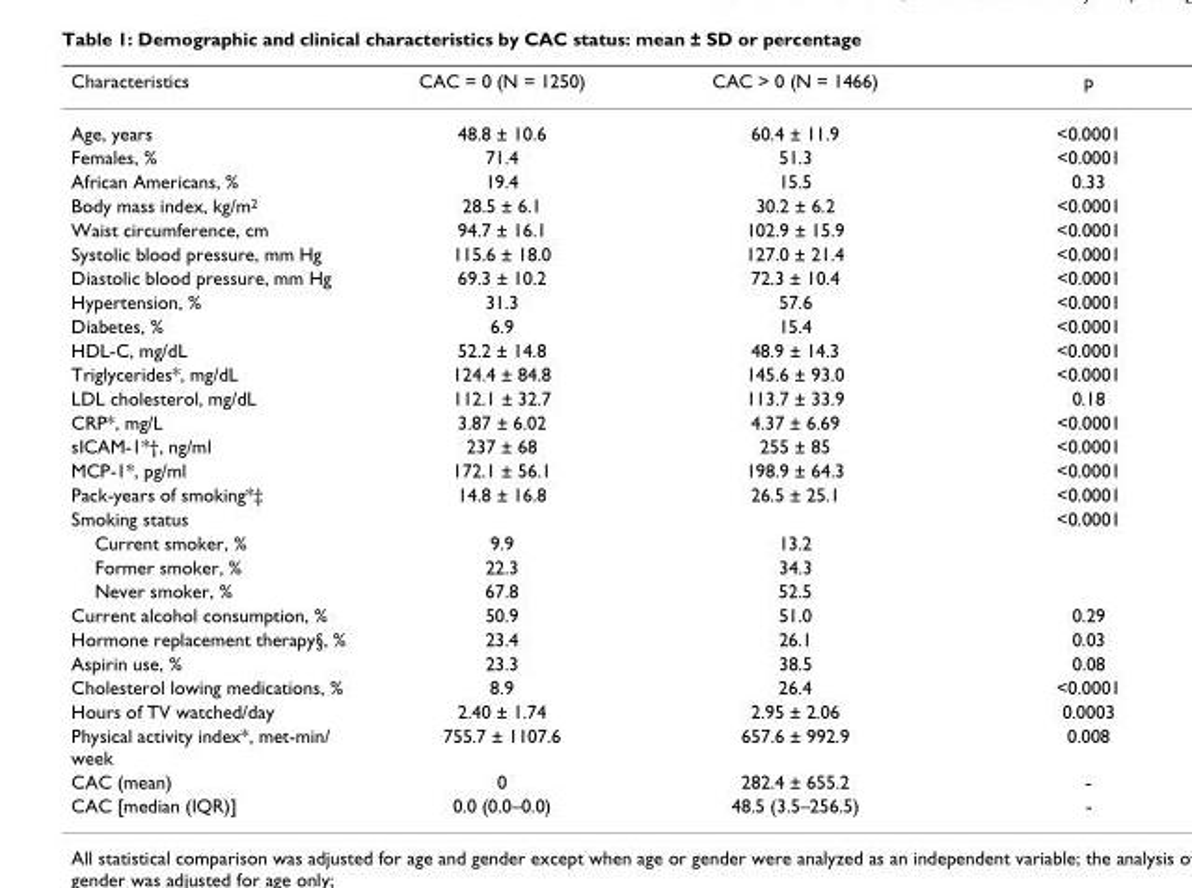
<table><thead><tr><td>Characteristics</td><td>CAC = 0 (N = 1250)</td><td>CAC &gt; 0 (N = 1466)</td><td>p</td></tr></thead><tbody><tr><td>Age, years</td><td>48.8 ± 10.6</td><td>60.4 ± 11.9</td><td>&lt;0.0001</td></tr><tr><td>Females, %</td><td>71.4</td><td>51.3</td><td>&lt;0.0001</td></tr><tr><td>African Americans, %</td><td>19.4</td><td>15.5</td><td>0.33</td></tr><tr><td>Body mass index, kg/m<sup>2</sup></td><td>28.5 ± 6.1</td><td>30.2 ± 6.2</td><td>&lt;0.0001</td></tr><tr><td>Waist circumference, cm</td><td>94.7 ± 16.1</td><td>102.9 ± 15.9</td><td>&lt;0.0001</td></tr><tr><td>Systolic blood pressure, mm Hg</td><td>115.6 ± 18.0</td><td>127.0 ± 21.4</td><td>&lt;0.0001</td></tr><tr><td>Diastolic blood pressure, mm Hg</td><td>69.3 ± 10.2</td><td>72.3 ± 10.4</td><td>&lt;0.0001</td></tr><tr><td>Hypertension, %</td><td>31.3</td><td>57.6</td><td>&lt;0.0001</td></tr><tr><td>Diabetes, %</td><td>6.9</td><td>15.4</td><td>&lt;0.0001</td></tr><tr><td>HDL-C, mg/dL</td><td>52.2 ± 14.8</td><td>48.9 ± 14.3</td><td>&lt;0.0001</td></tr><tr><td>Triglycerides*, mg/dL</td><td>124.4 ± 84.8</td><td>145.6 ± 93.0</td><td>&lt;0.0001</td></tr><tr><td>LDL cholesterol, mg/dL</td><td>112.1 ± 32.7</td><td>113.7 ± 33.9</td><td>0.18</td></tr><tr><td>CRP*, mg/L</td><td>3.87 ± 6.02</td><td>4.37 ± 6.69</td><td>&lt;0.0001</td></tr><tr><td>sICAM-1*†, ng/ml</td><td>237 ± 68</td><td>255 ± 85</td><td>&lt;0.0001</td></tr><tr><td>MCP-1*, pg/ml</td><td>172.1 ± 56.1</td><td>198.9 ± 64.3</td><td>&lt;0.0001</td></tr><tr><td>Pack-years of smoking*‡</td><td>14.8 ± 16.8</td><td>26.5 ± 25.1</td><td>&lt;0.0001</td></tr><tr><td>Smoking status</td><td></td><td></td><td>&lt;0.0001</td></tr><tr><td>Current smoker, %</td><td>9.9</td><td>13.2</td><td></td></tr><tr><td>Former smoker, %</td><td>22.3</td><td>34.3</td><td></td></tr><tr><td>Never smoker, %</td><td>67.8</td><td>52.5</td><td></td></tr><tr><td>Current alcohol consumption, %</td><td>50.9</td><td>51.0</td><td>0.29</td></tr><tr><td>Hormone replacement therapy§, %</td><td>23.4</td><td>26.1</td><td>0.03</td></tr><tr><td>Aspirin use, %</td><td>23.3</td><td>38.5</td><td>0.08</td></tr><tr><td>Cholesterol lowing medications, %</td><td>8.9</td><td>26.4</td><td>&lt;0.0001</td></tr><tr><td>Hours of TV watched/day</td><td>2.40 ± 1.74</td><td>2.95 ± 2.06</td><td>0.0003</td></tr><tr><td>Physical activity index*, met-min/ week</td><td>755.7 ± 1107.6</td><td>657.6 ± 992.9</td><td>0.008</td></tr><tr><td>CAC (mean)</td><td>0</td><td>282.4 ± 655.2</td><td>-</td></tr><tr><td>CAC [median (IQR)]</td><td>0.0 (0.0–0.0)</td><td>48.5 (3.5–256.5)</td><td>-</td></tr></tbody></table>